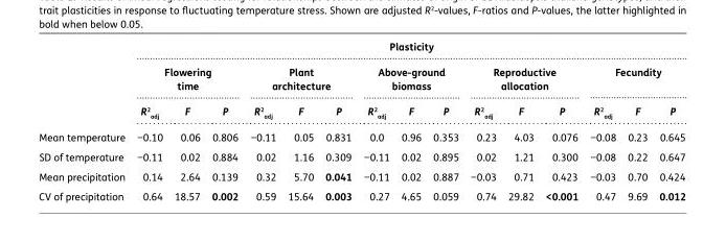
<table><thead><tr><td rowspan="3"></td><td colspan="15">Plasticity</td></tr><tr><td colspan="3">Flowering time</td><td colspan="3">Plant architecture</td><td colspan="3">Above-ground biomass</td><td colspan="3">Reproductive allocation</td><td colspan="3">Fecundity</td></tr><tr><td>R<sup>2</sup> <sub>adj</sub></td><td>F</td><td>P</td><td>R<sup>2</sup> <sub>adj</sub></td><td>F</td><td>P</td><td>R<sup>2</sup> <sub>adj</sub></td><td>F</td><td>P</td><td>R<sup>2</sup> <sub>adj</sub></td><td>F</td><td>P</td><td>R<sup>2</sup> <sub>adj</sub></td><td>F</td><td>P</td></tr></thead><tbody><tr><td>Mean temperature</td><td>−0.10</td><td>0.06</td><td>0.806</td><td>−0.11</td><td>0.05</td><td>0.831</td><td>0.0</td><td>0.96</td><td>0.353</td><td>0.23</td><td>4.03</td><td>0.076</td><td>−0.08</td><td>0.23</td><td>0.645</td></tr><tr><td>SD of temperature</td><td>−0.11</td><td>0.02</td><td>0.884</td><td>0.02</td><td>1.16</td><td>0.309</td><td>−0.11</td><td>0.02</td><td>0.895</td><td>0.02</td><td>1.21</td><td>0.300</td><td>−0.08</td><td>0.22</td><td>0.647</td></tr><tr><td>Mean precipitation</td><td>0.14</td><td>2.64</td><td>0.139</td><td>0.32</td><td>5.70</td><td>0.041</td><td>−0.11</td><td>0.02</td><td>0.887</td><td>−0.03</td><td>0.71</td><td>0.423</td><td>−0.03</td><td>0.70</td><td>0.424</td></tr><tr><td>CV of precipitation</td><td>0.64</td><td>18.57</td><td>0.002</td><td>0.59</td><td>15.64</td><td>0.003</td><td>0.27</td><td>4.65</td><td>0.059</td><td>0.74</td><td>29.82</td><td>&lt;0.001</td><td>0.47</td><td>9.69</td><td>0.012</td></tr></tbody></table>